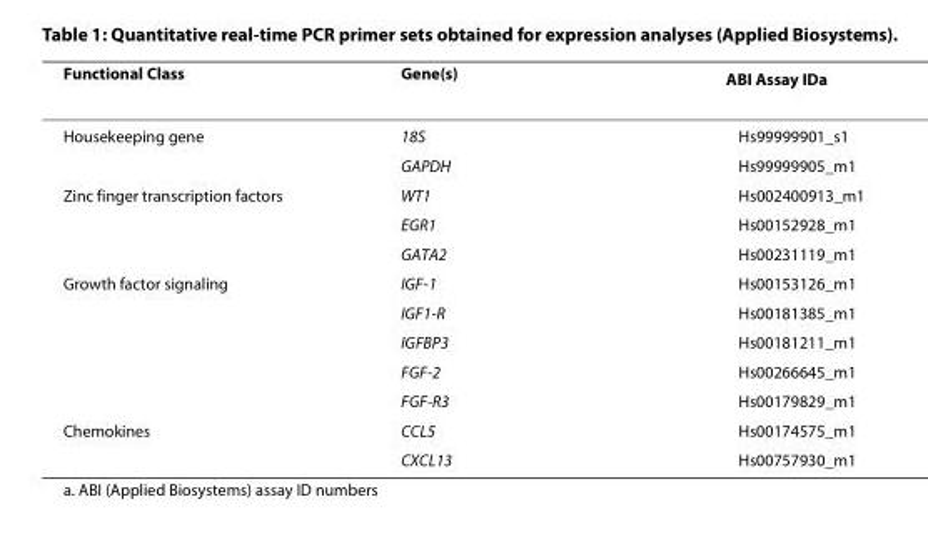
<table><thead><tr><td>Functional Class</td><td>Gene(s)</td><td>ABI Assay ID<sup>a</sup></td></tr></thead><tbody><tr><td rowspan="2">Housekeeping gene</td><td>18S</td><td>Hs99999901_s1</td></tr><tr><td>GAPDH</td><td>Hs99999905_m1</td></tr><tr><td rowspan="3">Zinc finger transcription factors</td><td>WT1</td><td>Hs002400913_m1</td></tr><tr><td>EGR1</td><td>Hs00152928_m1</td></tr><tr><td>GATA2</td><td>Hs00231119_m1</td></tr><tr><td rowspan="5">Growth factor signaling</td><td>IGF-1</td><td>Hs00153126_m1</td></tr><tr><td>IGF1-R</td><td>Hs00181385_m1</td></tr><tr><td>IGFBP3</td><td>Hs00181211_m1</td></tr><tr><td>FGF-2</td><td>Hs00266645_m1</td></tr><tr><td>FGF-R3</td><td>Hs00179829_m1</td></tr><tr><td rowspan="2">Chemokines</td><td>CCL5</td><td>Hs00174575_m1</td></tr><tr><td>CXCL13</td><td>Hs00757930_m1</td></tr></tbody></table>